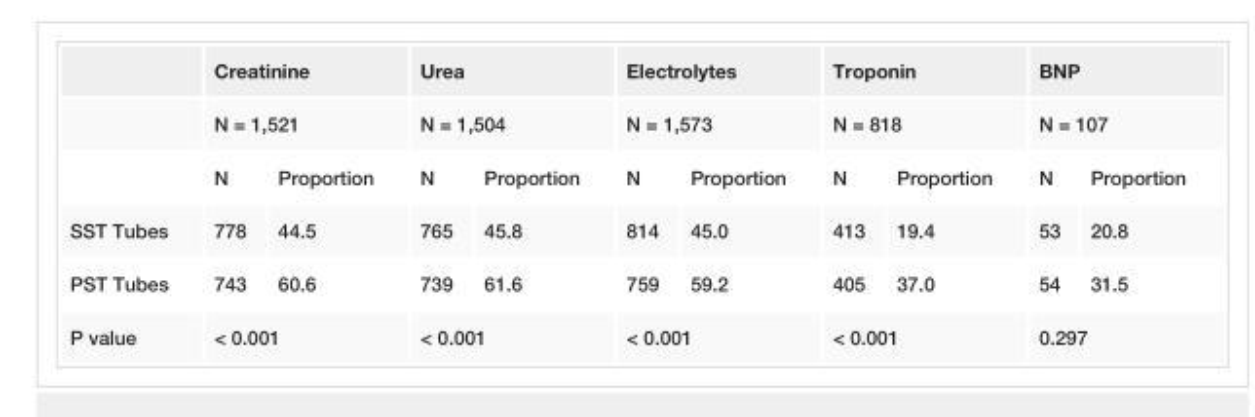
<table><thead><tr><td rowspan="3"></td><td rowspan="2" colspan="2">Creatinine N = 1,521</td><td rowspan="2" colspan="2">Urea N = 1,504</td><td rowspan="2" colspan="2">Electrolytes N = 1,573</td><td rowspan="2" colspan="2">Troponin N = 818</td><td rowspan="2" colspan="2">BNP N = 107</td></tr><tr></tr><tr><td>N</td><td>Proportion</td><td>N</td><td>Proportion</td><td>N</td><td>Proportion</td><td>N</td><td>Proportion</td><td>N</td><td>Proportion</td></tr></thead><tbody><tr><td>SST Tubes</td><td>778</td><td>44.5</td><td>765</td><td>45.8</td><td>814</td><td>45.0</td><td>413</td><td>19.4</td><td>53</td><td>20.8</td></tr><tr><td>PST Tubes</td><td>743</td><td>60.6</td><td>739</td><td>61.6</td><td>759</td><td>59.2</td><td>405</td><td>37.0</td><td>54</td><td>31.5</td></tr><tr><td>P value</td><td colspan="2">&lt; 0.001</td><td colspan="2">&lt; 0.001</td><td colspan="2">&lt; 0.001</td><td colspan="2">&lt; 0.001</td><td colspan="2">0.297</td></tr></tbody></table>